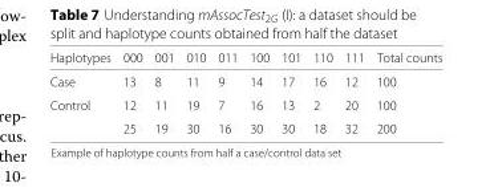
<table><thead><tr><td>Haplotypes</td><td>000</td><td>001</td><td>010</td><td>011</td><td>100</td><td>101</td><td>110</td><td>111</td><td>Total counts</td></tr></thead><tbody><tr><td>Case</td><td>13</td><td>8</td><td>11</td><td>9</td><td>14</td><td>17</td><td>16</td><td>12</td><td>100</td></tr><tr><td rowspan="2">Control</td><td>12</td><td>11</td><td>19</td><td>7</td><td>16</td><td>13</td><td>2</td><td>20</td><td>100</td></tr><tr><td>25</td><td>19</td><td>30</td><td>16</td><td>30</td><td>30</td><td>18</td><td>32</td><td>200</td></tr></tbody></table>